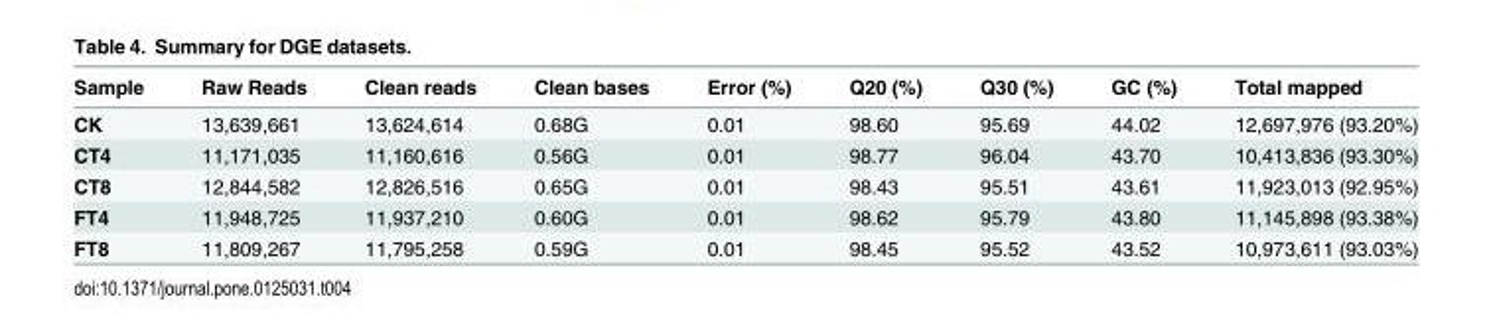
<table><thead><tr><td>Sample</td><td>Raw Reads</td><td>Clean reads</td><td>Clean bases</td><td>Error (%)</td><td>Q20 (%)</td><td>Q30 (%)</td><td>GC (%)</td><td>Total mapped</td></tr></thead><tbody><tr><td>CK</td><td>13,639,661</td><td>13,624,614</td><td>0.68G</td><td>0.01</td><td>98.60</td><td>95.69</td><td>44.02</td><td>12,697,976 (93.20%)</td></tr><tr><td>CT4</td><td>11,171,035</td><td>11,160,616</td><td>0.56G</td><td>0.01</td><td>98.77</td><td>96.04</td><td>43.70</td><td>10,413,836 (93.30%)</td></tr><tr><td>CT8</td><td>12,844,582</td><td>12,826,516</td><td>0.65G</td><td>0.01</td><td>98.43</td><td>95.51</td><td>43.61</td><td>11,923,013 (92.95%)</td></tr><tr><td>FT4</td><td>11,948,725</td><td>11,937,210</td><td>0.60G</td><td>0.01</td><td>98.62</td><td>95.79</td><td>43.80</td><td>11,145,898 (93.38%)</td></tr><tr><td>FT8</td><td>11,809,267</td><td>11,795,258</td><td>0.59G</td><td>0.01</td><td>98.45</td><td>95.52</td><td>43.52</td><td>10,973,611 (93.03%)</td></tr></tbody></table>